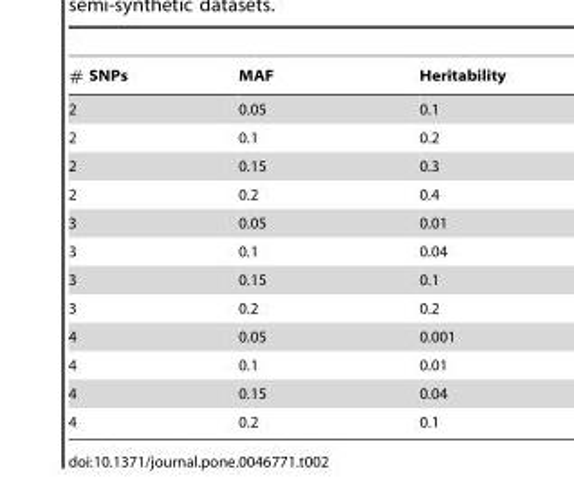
<table><thead><tr><td># SNPs</td><td>MAF</td><td>Heritability</td></tr></thead><tbody><tr><td>2</td><td>0.05</td><td>0.1</td></tr><tr><td>2</td><td>0.1</td><td>0.2</td></tr><tr><td>2</td><td>0.15</td><td>0.3</td></tr><tr><td>2</td><td>0.2</td><td>0.4</td></tr><tr><td>3</td><td>0.05</td><td>0.01</td></tr><tr><td>3</td><td>0.1</td><td>0.04</td></tr><tr><td>3</td><td>0.15</td><td>0.1</td></tr><tr><td>3</td><td>0.2</td><td>0.2</td></tr><tr><td>4</td><td>0.05</td><td>0.001</td></tr><tr><td>4</td><td>0.1</td><td>0.01</td></tr><tr><td>4</td><td>0.15</td><td>0.04</td></tr><tr><td>4</td><td>0.2</td><td>0.1</td></tr></tbody></table>